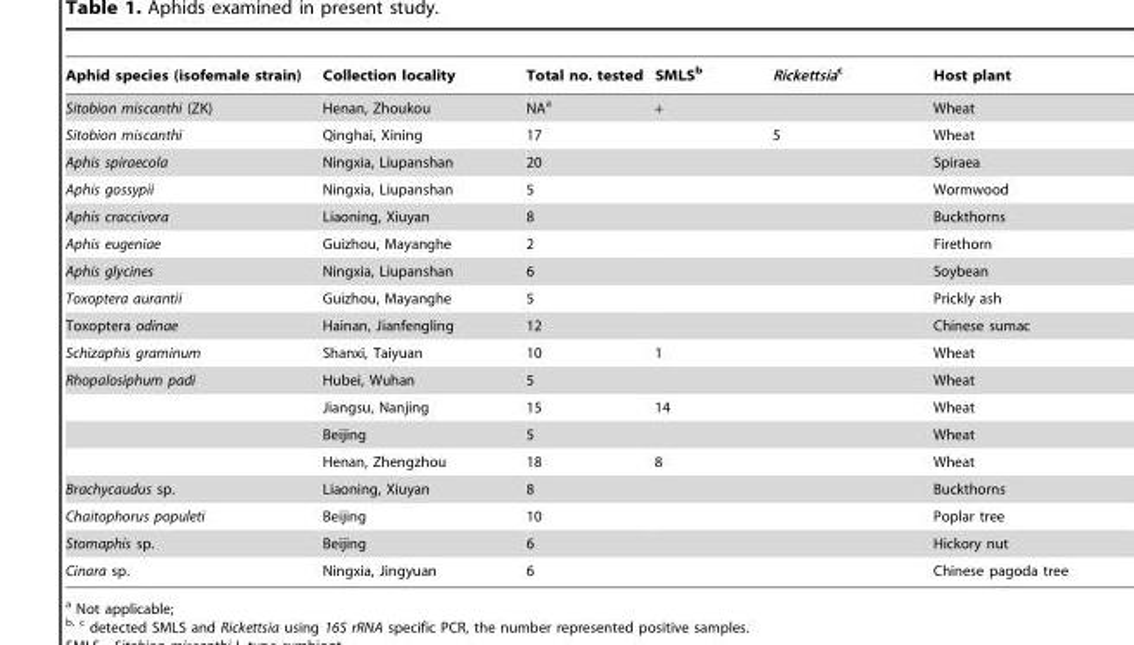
<table><thead><tr><td>Aphid species (isofemale strain)</td><td>Collection locality</td><td>Total no. tested</td><td>SMLS<sup>b</sup></td><td>Rickettsiac</td><td>Host plant</td></tr></thead><tbody><tr><td>Sitobion miscanthi (ZK)</td><td>Henan, Zhoukou</td><td>NA<sup>a</sup></td><td>+</td><td></td><td>Wheat</td></tr><tr><td>Sitobion miscanthi</td><td>Qinghai, Xining</td><td>17</td><td></td><td>5</td><td>Wheat</td></tr><tr><td>Aphis spiraecola</td><td>Ningxia, Liupanshan</td><td>20</td><td></td><td></td><td>Spiraea</td></tr><tr><td>Aphis gossypii</td><td>Ningxia, Liupanshan</td><td>5</td><td></td><td></td><td>Wormwood</td></tr><tr><td>Aphis craccivora</td><td>Liaoning, Xiuyan</td><td>8</td><td></td><td></td><td>Buckthorns</td></tr><tr><td>Aphis eugeniae</td><td>Guizhou, Mayanghe</td><td>2</td><td></td><td></td><td>Firethorn</td></tr><tr><td>Aphis glycines</td><td>Ningxia, Liupanshan</td><td>6</td><td></td><td></td><td>Soybean</td></tr><tr><td>Toxoptera aurantii</td><td>Guizhou, Mayanghe</td><td>5</td><td></td><td></td><td>Prickly ash</td></tr><tr><td>Toxoptera odinae</td><td>Hainan, Jianfengling</td><td>12</td><td></td><td></td><td>Chinese sumac</td></tr><tr><td>Schizaphis graminum</td><td>Shanxi, Taiyuan</td><td>10</td><td>1</td><td></td><td>Wheat</td></tr><tr><td rowspan="4">Rhopalosiphum padi</td><td>Hubei, Wuhan</td><td>5</td><td></td><td></td><td>Wheat</td></tr><tr><td>Jiangsu, Nanjing</td><td>15</td><td>14</td><td></td><td>Wheat</td></tr><tr><td>Beijing</td><td>5</td><td></td><td></td><td>Wheat</td></tr><tr><td>Henan, Zhengzhou</td><td>18</td><td>8</td><td></td><td>Wheat</td></tr><tr><td>Brachycaudus sp.</td><td>Liaoning, Xiuyan</td><td>8</td><td></td><td></td><td>Buckthorns</td></tr><tr><td>Chaitophorus populeti</td><td>Beijing</td><td>10</td><td></td><td></td><td>Poplar tree</td></tr><tr><td>Stomaphis sp.</td><td>Beijing</td><td>6</td><td></td><td></td><td>Hickory nut</td></tr><tr><td>Cinara sp.</td><td>Ningxia, Jingyuan</td><td>6</td><td></td><td></td><td>Chinese pagoda tree</td></tr></tbody></table>